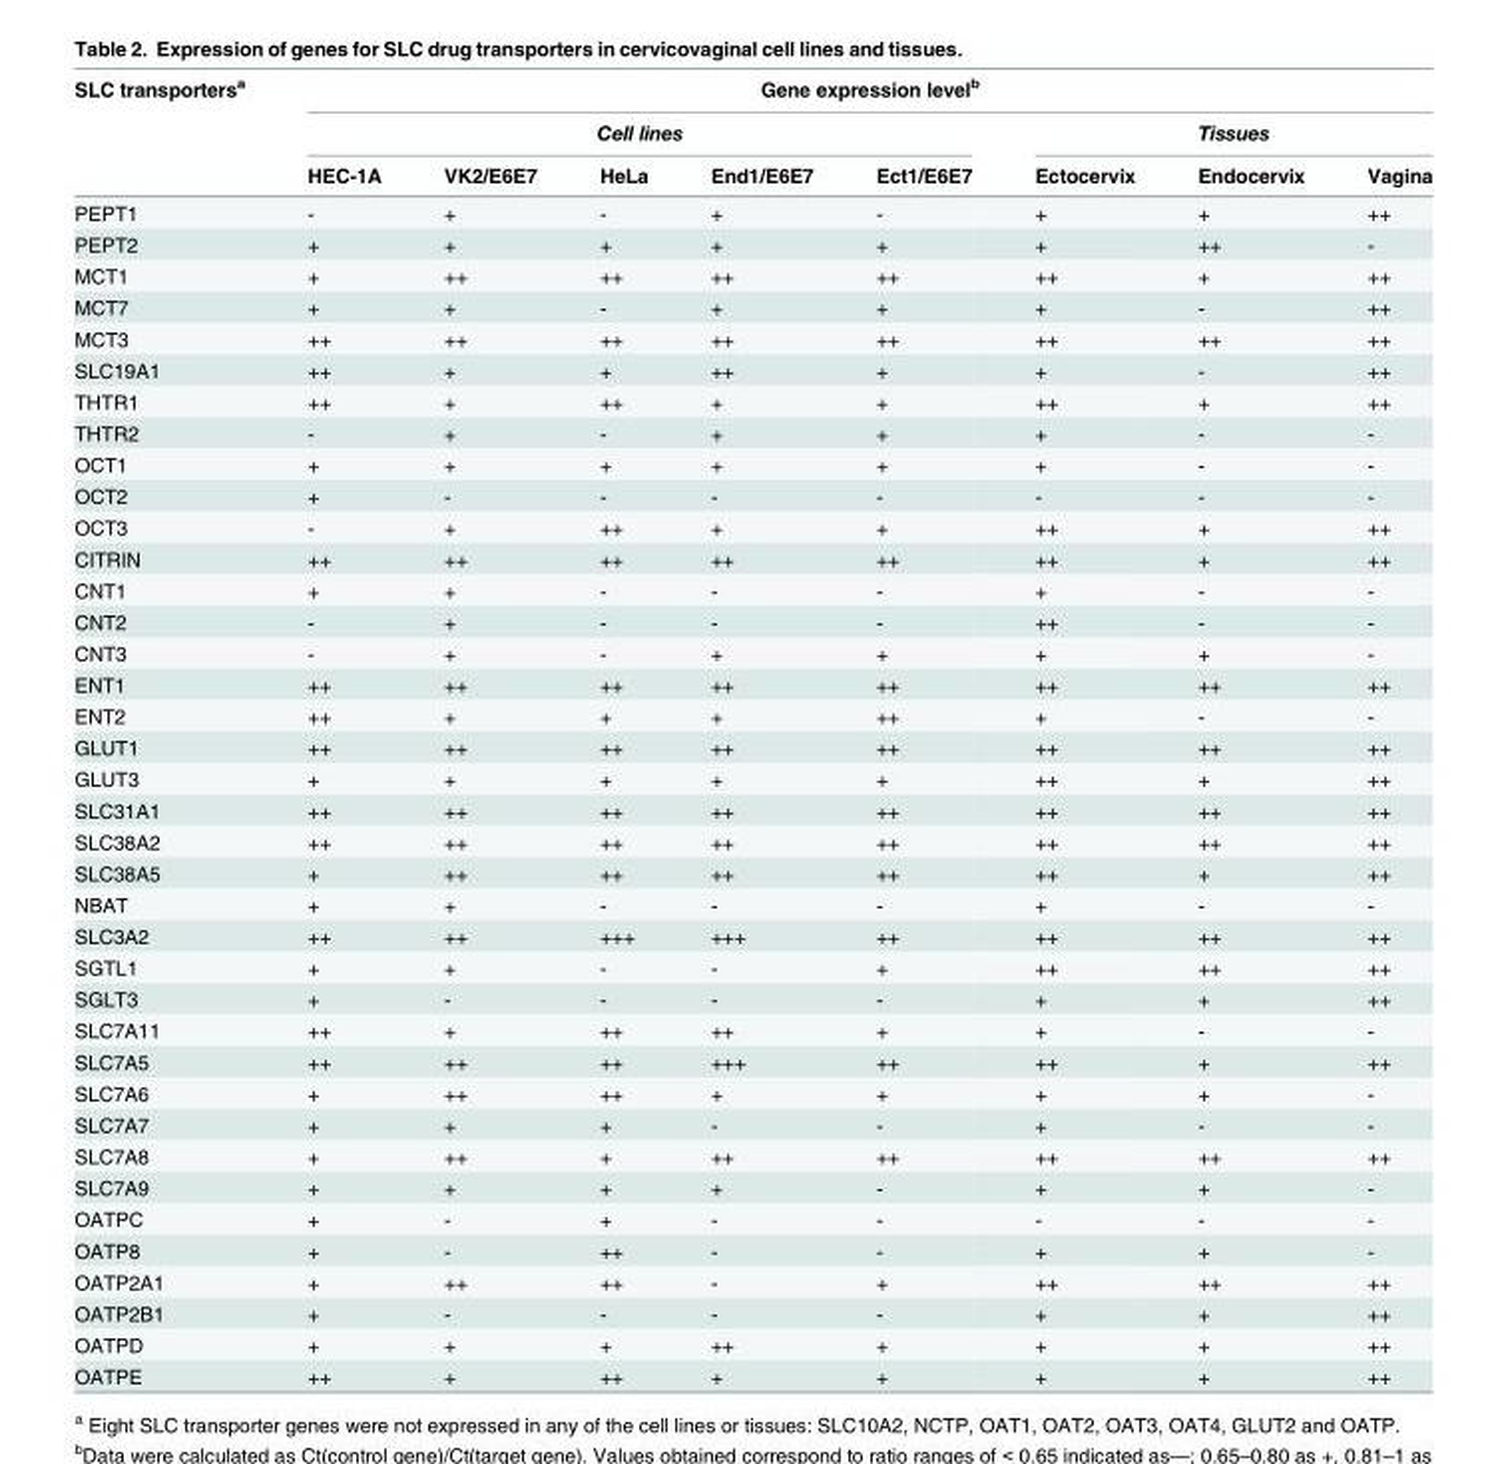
<table><thead><tr><td rowspan="3">SLC transporters<sup>a</sup></td><td colspan="8">Gene expression level<sup>b</sup></td></tr><tr><td colspan="5">Cell lines</td><td colspan="3">Tissues</td></tr><tr><td>HEC-1A</td><td>VK2/E6E7</td><td>HeLa</td><td>End1/E6E7</td><td>Ect1/E6E7</td><td>Ectocervix</td><td>Endocervix</td><td>Vagina</td></tr></thead><tbody><tr><td>PEPT1</td><td>-</td><td>+</td><td>-</td><td>+</td><td>-</td><td>+</td><td>+</td><td>++</td></tr><tr><td>PEPT2</td><td>+</td><td>+</td><td>+</td><td>+</td><td>+</td><td>+</td><td>++</td><td>-</td></tr><tr><td>MCT1</td><td>+</td><td>++</td><td>++</td><td>++</td><td>++</td><td>++</td><td>+</td><td>++</td></tr><tr><td>MCT7</td><td>+</td><td>+</td><td>-</td><td>+</td><td>+</td><td>+</td><td>-</td><td>++</td></tr><tr><td>MCT3</td><td>++</td><td>++</td><td>++</td><td>++</td><td>++</td><td>++</td><td>++</td><td>++</td></tr><tr><td>SLC19A1</td><td>++</td><td>+</td><td>+</td><td>++</td><td>+</td><td>+</td><td>-</td><td>++</td></tr><tr><td>THTR1</td><td>++</td><td>+</td><td>++</td><td>+</td><td>+</td><td>++</td><td>+</td><td>++</td></tr><tr><td>THTR2</td><td>-</td><td>+</td><td>-</td><td>+</td><td>+</td><td>+</td><td>-</td><td>-</td></tr><tr><td>OCT1</td><td>+</td><td>+</td><td>+</td><td>+</td><td>+</td><td>+</td><td>-</td><td>-</td></tr><tr><td>OCT2</td><td>+</td><td>-</td><td>-</td><td>-</td><td>-</td><td>-</td><td>-</td><td>-</td></tr><tr><td>OCT3</td><td>-</td><td>+</td><td>++</td><td>+</td><td>+</td><td>++</td><td>+</td><td>++</td></tr><tr><td>CITRIN</td><td>++</td><td>++</td><td>++</td><td>++</td><td>++</td><td>++</td><td>+</td><td>++</td></tr><tr><td>CNT1</td><td>+</td><td>+</td><td>-</td><td>-</td><td>-</td><td>+</td><td>-</td><td>-</td></tr><tr><td>CNT2</td><td>-</td><td>+</td><td>-</td><td>-</td><td>-</td><td>++</td><td>-</td><td>-</td></tr><tr><td>CNT3</td><td>-</td><td>+</td><td>-</td><td>+</td><td>+</td><td>+</td><td>+</td><td>-</td></tr><tr><td>ENT1</td><td>++</td><td>++</td><td>++</td><td>++</td><td>++</td><td>++</td><td>++</td><td>++</td></tr><tr><td>ENT2</td><td>++</td><td>+</td><td>+</td><td>+</td><td>++</td><td>+</td><td>-</td><td>-</td></tr><tr><td>GLUT1</td><td>++</td><td>++</td><td>++</td><td>++</td><td>++</td><td>++</td><td>++</td><td>++</td></tr><tr><td>GLUT3</td><td>+</td><td>+</td><td>+</td><td>+</td><td>+</td><td>++</td><td>+</td><td>++</td></tr><tr><td>SLC31A1</td><td>++</td><td>++</td><td>++</td><td>++</td><td>++</td><td>++</td><td>++</td><td>++</td></tr><tr><td>SLC38A2</td><td>++</td><td>++</td><td>++</td><td>++</td><td>++</td><td>++</td><td>++</td><td>++</td></tr><tr><td>SLC38A5</td><td>+</td><td>++</td><td>++</td><td>++</td><td>++</td><td>++</td><td>+</td><td>++</td></tr><tr><td>NBAT</td><td>+</td><td>+</td><td>-</td><td>-</td><td>-</td><td>+</td><td>-</td><td>-</td></tr><tr><td>SLC3A2</td><td>++</td><td>++</td><td>+++</td><td>+++</td><td>++</td><td>++</td><td>++</td><td>++</td></tr><tr><td>SGTL1</td><td>+</td><td>+</td><td>-</td><td>-</td><td>+</td><td>++</td><td>++</td><td>++</td></tr><tr><td>SGLT3</td><td>+</td><td>-</td><td>-</td><td>-</td><td>-</td><td>+</td><td>+</td><td>++</td></tr><tr><td>SLC7A11</td><td>++</td><td>+</td><td>++</td><td>++</td><td>+</td><td>+</td><td>-</td><td>-</td></tr><tr><td>SLC7A5</td><td>++</td><td>++</td><td>++</td><td>+++</td><td>++</td><td>++</td><td>+</td><td>++</td></tr><tr><td>SLC7A6</td><td>+</td><td>++</td><td>++</td><td>+</td><td>+</td><td>+</td><td>+</td><td>-</td></tr><tr><td>SLC7A7</td><td>+</td><td>+</td><td>+</td><td>-</td><td>-</td><td>+</td><td>-</td><td>-</td></tr><tr><td>SLC7A8</td><td>+</td><td>++</td><td>+</td><td>++</td><td>++</td><td>++</td><td>++</td><td>++</td></tr><tr><td>SLC7A9</td><td>+</td><td>+</td><td>+</td><td>+</td><td>-</td><td>+</td><td>+</td><td>-</td></tr><tr><td>OATPC</td><td>+</td><td>-</td><td>+</td><td>-</td><td>-</td><td>-</td><td>-</td><td>-</td></tr><tr><td>OATP8</td><td>+</td><td>-</td><td>++</td><td>-</td><td>-</td><td>+</td><td>+</td><td>-</td></tr><tr><td>OATP2A1</td><td>+</td><td>++</td><td>++</td><td>-</td><td>+</td><td>++</td><td>++</td><td>++</td></tr><tr><td>OATP2B1</td><td>+</td><td>-</td><td>-</td><td>-</td><td>-</td><td>+</td><td>+</td><td>++</td></tr><tr><td>OATPD</td><td>+</td><td>+</td><td>+</td><td>++</td><td>+</td><td>+</td><td>+</td><td>++</td></tr><tr><td>OATPE</td><td>++</td><td>+</td><td>++</td><td>+</td><td>+</td><td>+</td><td>+</td><td>++</td></tr></tbody></table>